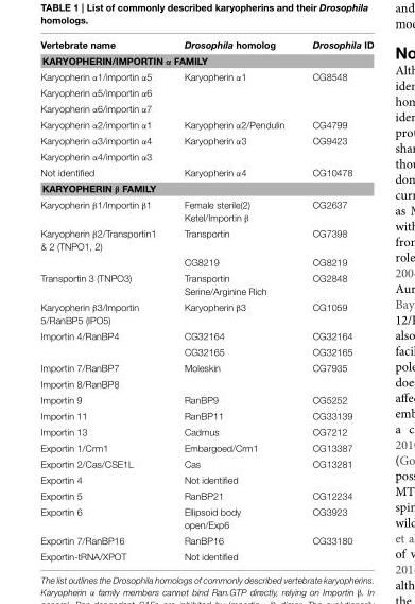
<table><thead><tr><td>Vertebrate name</td><td>Drosophila homolog</td><td>Drosophila ID</td></tr></thead><tbody><tr><td colspan="3">KARYOPHERIN/IMPORTIN α FAMILY</td></tr><tr><td>Karyopherin α1/importin α5</td><td>Karyopherin α1</td><td>CG8548</td></tr><tr><td colspan="3">Karyopherin α5/importin α6</td></tr><tr><td colspan="3">Karyopherin α6/importin α7</td></tr><tr><td>Karyopherin α2/importin α1</td><td>Karyopherin α2/Pendulin</td><td>CG4799</td></tr><tr><td>Karyopherin α3/importin α4</td><td>Karyopherin α3</td><td>CG9423</td></tr><tr><td colspan="3">Karyopherin α4/importin α3</td></tr><tr><td>Not identified</td><td>Karyopherin α4</td><td>CG10478</td></tr><tr><td colspan="3">KARYOPHERIN β FAMILY</td></tr><tr><td>Karyopherin β1/Importin β1</td><td>Female sterile(2) Ketel/Importin β</td><td>CG2637</td></tr><tr><td rowspan="2">Karyopherin β2/Transportin1 &amp; 2 (TNPO1, 2)</td><td>Transportin</td><td>CG7398</td></tr><tr><td>CG8219</td><td>CG8219</td></tr><tr><td>Transportin 3 (TNPO3)</td><td>Transportin Serine/Arginine Rich</td><td>CG2848</td></tr><tr><td>Karyopherin β3/Importin 5/RanBP5 (IPO5)</td><td>Karyopherin β3</td><td>CG1059</td></tr><tr><td rowspan="2">Importin 4/RanBP4</td><td>CG32164</td><td>CG32164</td></tr><tr><td>CG32165</td><td>CG32165</td></tr><tr><td>Importin 7/RanBP7</td><td>Moleskin</td><td>CG7935</td></tr><tr><td colspan="3">Importin 8/RanBP8</td></tr><tr><td>Importin 9</td><td>RanBP9</td><td>CG5252</td></tr><tr><td>Importin 11</td><td>RanBP11</td><td>CG33139</td></tr><tr><td>Importin 13</td><td>Cadmus</td><td>CG7212</td></tr><tr><td>Exportin 1/Crm1</td><td>Embargoed/Crm1</td><td>CG13387</td></tr><tr><td>Exportin 2/Cas/CSE1L</td><td>Cas</td><td>CG13281</td></tr><tr><td>Exportin 4</td><td>Not identified</td><td></td></tr><tr><td>Exportin 5</td><td>RanBP21</td><td>CG12234</td></tr><tr><td>Exportin 6</td><td>Ellipsoid body open/Exp6</td><td>CG3923</td></tr><tr><td>Exportin 7/RanBP16</td><td>RanBP16</td><td>CG33180</td></tr><tr><td>Exportin-tRNA/XPOT</td><td>Not identified</td><td></td></tr></tbody></table>